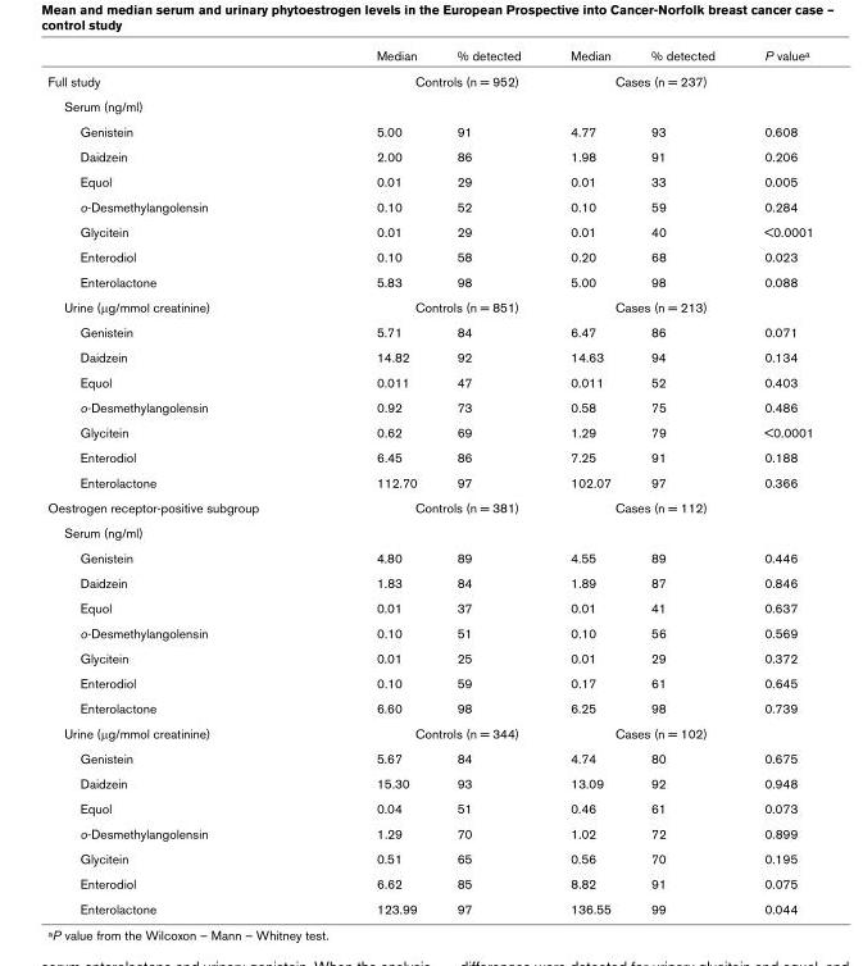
<table><thead><tr><td></td><td>Median</td><td>% detected</td><td>Median</td><td>% detected</td><td>P value<sup>a</sup></td></tr></thead><tbody><tr><td>Full study</td><td colspan="2">Controls (n = 952)</td><td colspan="2">Cases (n = 237)</td><td></td></tr><tr><td colspan="6">Serum (ng/ml)</td></tr><tr><td>Genistein</td><td>5.00</td><td>91</td><td>4.77</td><td>93</td><td>0.608</td></tr><tr><td>Daidzein</td><td>2.00</td><td>86</td><td>1.98</td><td>91</td><td>0.206</td></tr><tr><td>Equol</td><td>0.01</td><td>29</td><td>0.01</td><td>33</td><td>0.005</td></tr><tr><td>o-Desmethylangolensin</td><td>0.10</td><td>52</td><td>0.10</td><td>59</td><td>0.284</td></tr><tr><td>Glycitein</td><td>0.01</td><td>29</td><td>0.01</td><td>40</td><td>&lt;0.0001</td></tr><tr><td>Enterodiol</td><td>0.10</td><td>58</td><td>0.20</td><td>68</td><td>0.023</td></tr><tr><td>Enterolactone</td><td>5.83</td><td>98</td><td>5.00</td><td>98</td><td>0.088</td></tr><tr><td>Urine (μg/mmol creatinine)</td><td colspan="2">Controls (n = 851)</td><td colspan="2">Cases (n = 213)</td><td></td></tr><tr><td>Genistein</td><td>5.71</td><td>84</td><td>6.47</td><td>86</td><td>0.071</td></tr><tr><td>Daidzein</td><td>14.82</td><td>92</td><td>14.63</td><td>94</td><td>0.134</td></tr><tr><td>Equol</td><td>0.011</td><td>47</td><td>0.011</td><td>52</td><td>0.403</td></tr><tr><td>o-Desmethylangolensin</td><td>0.92</td><td>73</td><td>0.58</td><td>75</td><td>0.486</td></tr><tr><td>Glycitein</td><td>0.62</td><td>69</td><td>1.29</td><td>79</td><td>&lt;0.0001</td></tr><tr><td>Enterodiol</td><td>6.45</td><td>86</td><td>7.25</td><td>91</td><td>0.188</td></tr><tr><td>Enterolactone</td><td>112.70</td><td>97</td><td>102.07</td><td>97</td><td>0.366</td></tr><tr><td>Oestrogen receptor-positive subgroup</td><td colspan="2">Controls (n = 381)</td><td colspan="2">Cases (n = 112)</td><td></td></tr><tr><td colspan="6">Serum (ng/ml)</td></tr><tr><td>Genistein</td><td>4.80</td><td>89</td><td>4.55</td><td>89</td><td>0.446</td></tr><tr><td>Daidzein</td><td>1.83</td><td>84</td><td>1.89</td><td>87</td><td>0.846</td></tr><tr><td>Equol</td><td>0.01</td><td>37</td><td>0.01</td><td>41</td><td>0.637</td></tr><tr><td>o-Desmethylangolensin</td><td>0.10</td><td>51</td><td>0.10</td><td>56</td><td>0.569</td></tr><tr><td>Glycitein</td><td>0.01</td><td>25</td><td>0.01</td><td>29</td><td>0.372</td></tr><tr><td>Enterodiol</td><td>0.10</td><td>59</td><td>0.17</td><td>61</td><td>0.645</td></tr><tr><td>Enterolactone</td><td>6.60</td><td>98</td><td>6.25</td><td>98</td><td>0.739</td></tr><tr><td>Urine (μg/mmol creatinine)</td><td colspan="2">Controls (n = 344)</td><td colspan="2">Cases (n = 102)</td><td></td></tr><tr><td>Genistein</td><td>5.67</td><td>84</td><td>4.74</td><td>80</td><td>0.675</td></tr><tr><td>Daidzein</td><td>15.30</td><td>93</td><td>13.09</td><td>92</td><td>0.948</td></tr><tr><td>Equol</td><td>0.04</td><td>51</td><td>0.46</td><td>61</td><td>0.073</td></tr><tr><td>o-Desmethylangolensin</td><td>1.29</td><td>70</td><td>1.02</td><td>72</td><td>0.899</td></tr><tr><td>Glycitein</td><td>0.51</td><td>65</td><td>0.56</td><td>70</td><td>0.195</td></tr><tr><td>Enterodiol</td><td>6.62</td><td>85</td><td>8.82</td><td>91</td><td>0.075</td></tr><tr><td>Enterolactone</td><td>123.99</td><td>97</td><td>136.55</td><td>99</td><td>0.044</td></tr></tbody></table>